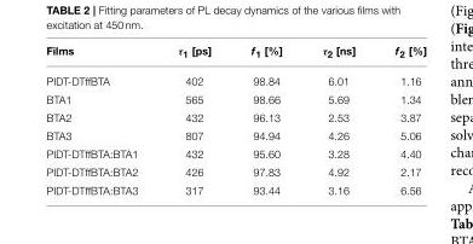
<table><thead><tr><td>Films</td><td>τ<sub>1</sub> [ps]</td><td>f<sub>1</sub> [%]</td><td>τ<sub>2</sub> [ns]</td><td>f<sub>2</sub> [%]</td></tr></thead><tbody><tr><td>PIDT-DTffBTA</td><td>402</td><td>98.84</td><td>6.01</td><td>1.16</td></tr><tr><td>BTA1</td><td>565</td><td>98.66</td><td>5.69</td><td>1.34</td></tr><tr><td>BTA2</td><td>432</td><td>96.13</td><td>2.53</td><td>3.87</td></tr><tr><td>BTA3</td><td>807</td><td>94.94</td><td>4.26</td><td>5.06</td></tr><tr><td>PIDT-DTffBTA:BTA1</td><td>432</td><td>95.60</td><td>3.28</td><td>4.40</td></tr><tr><td>PIDT-DTffBTA:BTA2</td><td>426</td><td>97.83</td><td>4.92</td><td>2.17</td></tr><tr><td>PIDT-DTffBTA:BTA3</td><td>317</td><td>93.44</td><td>3.16</td><td>6.56</td></tr></tbody></table>